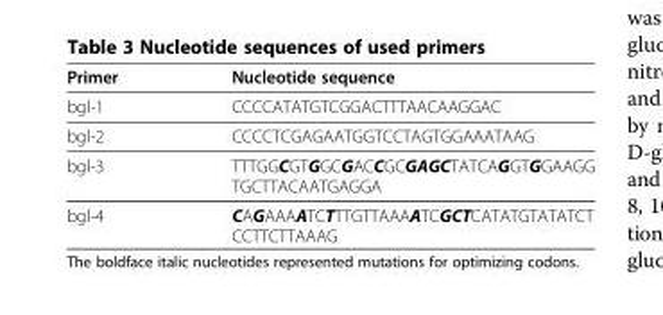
<table><thead><tr><td>Primer</td><td>Nucleotide sequence</td></tr></thead><tbody><tr><td>bgl-1</td><td>CCCCATATGTCGGACTTTAACAAGGAC</td></tr><tr><td>bgl-2</td><td>CCCCTCGAGAATGGTCCTAGTGGAAATAAG</td></tr><tr><td>bgl-3</td><td>TTTGGCGTGGCGACCGCGAGCTATCAGGTGGAAGG TGCTTACAATGAGGA</td></tr><tr><td>bgl-4</td><td>CAGAAAATCTTTGTTAAAATCGCTCATATGTATATCT CCTTCTTAAAG</td></tr></tbody></table>